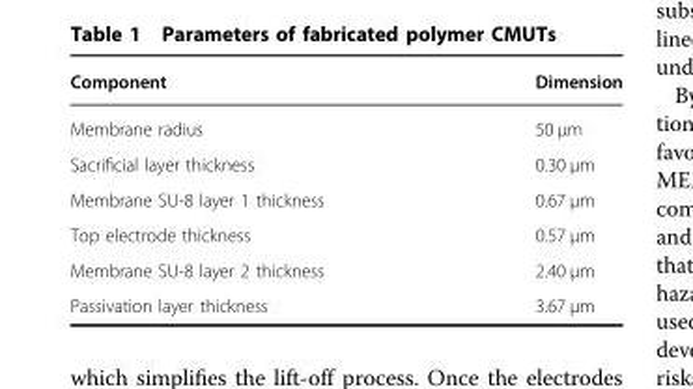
<table><thead><tr><td>Component</td><td>Dimension</td></tr></thead><tbody><tr><td>Membrane radius</td><td>50 μm</td></tr><tr><td>Sacrificial layer thickness</td><td>0.30 μm</td></tr><tr><td>Membrane SU-8 layer 1 thickness</td><td>0.67 μm</td></tr><tr><td>Top electrode thickness</td><td>0.57 μm</td></tr><tr><td>Membrane SU-8 layer 2 thickness</td><td>2.40 μm</td></tr><tr><td>Passivation layer thickness</td><td>3.67 μm</td></tr></tbody></table>